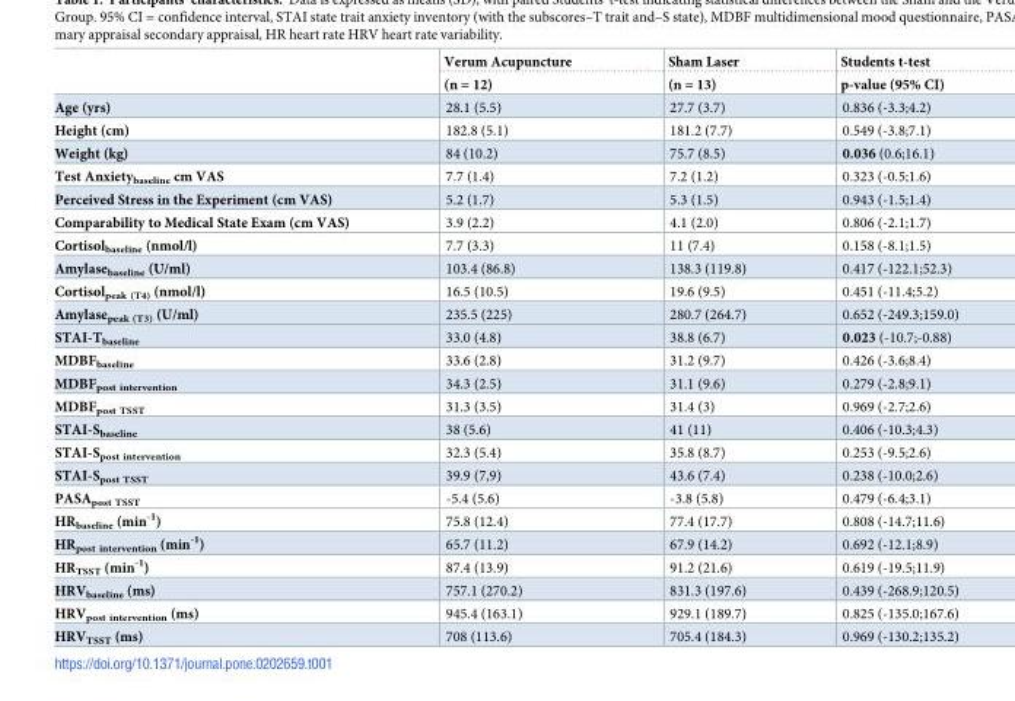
<table><thead><tr><td rowspan="2"></td><td rowspan="2">Verum Acupuncture (n = 12)</td><td rowspan="2">Sham Laser (n = 13)</td><td rowspan="2">Students t-test p-value (95% CI)</td></tr><tr></tr></thead><tbody><tr><td>Age (yrs)</td><td>28.1 (5.5)</td><td>27.7 (3.7)</td><td>0.836 (-3.3;4.2)</td></tr><tr><td>Height (cm)</td><td>182.8 (5.1)</td><td>181.2 (7.7)</td><td>0.549 (-3.8;7.1)</td></tr><tr><td>Weight (kg)</td><td>84 (10.2)</td><td>75.7 (8.5)</td><td>0.036 (0.6;16.1)</td></tr><tr><td>Test Anxiety<sub>baseline</sub> cm VAS</td><td>7.7 (1.4)</td><td>7.2 (1.2)</td><td>0.323 (-0.5;1.6)</td></tr><tr><td>Perceived Stress in the Experiment (cm VAS)</td><td>5.2 (1.7)</td><td>5.3 (1.5)</td><td>0.943 (-1.5;1.4)</td></tr><tr><td>Comparability to Medical State Exam (cm VAS)</td><td>3.9 (2.2)</td><td>4.1 (2.0)</td><td>0.806 (-2.1;1.7)</td></tr><tr><td>Cortisol<sub>baseline</sub> (nmol/l)</td><td>7.7 (3.3)</td><td>11 (7.4)</td><td>0.158 (-8.1;1.5)</td></tr><tr><td>Amylase<sub>baseline</sub> (U/ml)</td><td>103.4 (86.8)</td><td>138.3 (119.8)</td><td>0.417 (-122.1;52.3)</td></tr><tr><td>Cortisol<sub>peak (T4)</sub> (nmol/l)</td><td>16.5 (10.5)</td><td>19.6 (9.5)</td><td>0.451 (-11.4;5.2)</td></tr><tr><td>Amylase<sub>peak (T3)</sub> (U/ml)</td><td>235.5 (225)</td><td>280.7 (264.7)</td><td>0.652 (-249.3;159.0)</td></tr><tr><td>STAI-T<sub>baseline</sub></td><td>33.0 (4.8)</td><td>38.8 (6.7)</td><td>0.023 (-10.7;-0.88)</td></tr><tr><td>MDBF<sub>baseline</sub></td><td>33.6 (2.8)</td><td>31.2 (9.7)</td><td>0.426 (-3.6;8.4)</td></tr><tr><td>MDBF<sub>post intervention</sub></td><td>34.3 (2.5)</td><td>31.1 (9.6)</td><td>0.279 (-2.8;9.1)</td></tr><tr><td>MDBF<sub>post TSST</sub></td><td>31.3 (3.5)</td><td>31.4 (3)</td><td>0.969 (-2.7;2.6)</td></tr><tr><td>STAI-S<sub>baseline</sub></td><td>38 (5.6)</td><td>41 (11)</td><td>0.406 (-10.3;4.3)</td></tr><tr><td>STAI-S<sub>post intervention</sub></td><td>32.3 (5.4)</td><td>35.8 (8.7)</td><td>0.253 (-9.5;2.6)</td></tr><tr><td>STAI-S<sub>post TSST</sub></td><td>39.9 (7,9)</td><td>43.6 (7.4)</td><td>0.238 (-10.0;2.6)</td></tr><tr><td>PASA<sub>post TSST</sub></td><td>-5.4 (5.6)</td><td>-3.8 (5.8)</td><td>0.479 (-6.4;3.1)</td></tr><tr><td>HR<sub>baseline</sub> (min<sup>-1</sup>)</td><td>75.8 (12.4)</td><td>77.4 (17.7)</td><td>0.808 (-14.7;11.6)</td></tr><tr><td>HR<sub>post intervention</sub> (min<sup>-1</sup>)</td><td>65.7 (11.2)</td><td>67.9 (14.2)</td><td>0.692 (-12.1;8.9)</td></tr><tr><td>HR<sub>TSST</sub> (min<sup>-1</sup>)</td><td>87.4 (13.9)</td><td>91.2 (21.6)</td><td>0.619 (-19.5;11.9)</td></tr><tr><td>HRV<sub>baseline</sub> (ms)</td><td>757.1 (270.2)</td><td>831.3 (197.6)</td><td>0.439 (-268.9;120.5)</td></tr><tr><td>HRV<sub>post intervention</sub> (ms)</td><td>945.4 (163.1)</td><td>929.1 (189.7)</td><td>0.825 (-135.0;167.6)</td></tr><tr><td>HRV<sub>TSST</sub> (ms)</td><td>708 (113.6)</td><td>705.4 (184.3)</td><td>0.969 (-130.2;135.2)</td></tr></tbody></table>